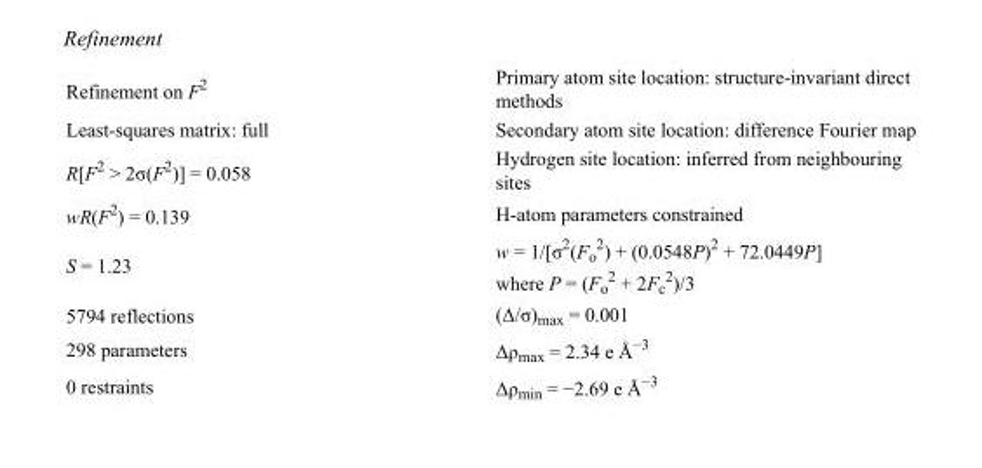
<table><tbody><tr><td>Refinement on F<sup>2</sup></td><td>Primary atom site location: structure-invariant direct methods</td></tr><tr><td>Least-squares matrix: full</td><td>Secondary atom site location: difference Fourier map</td></tr><tr><td>R[F<sup>2</sup> &gt; 2σ(F<sup>2</sup>)] = 0.058</td><td>Hydrogen site location: inferred from neighbouring sites</td></tr><tr><td>wR(F<sup>2</sup>) = 0.139</td><td>H-atom parameters constrained</td></tr><tr><td>S = 1.23</td><td>w = 1/[σ<sup>2</sup>(F<sub>o</sub> <sup>2</sup>) + (0.0548P)<sup>2</sup> + 72.0449P] where P = (F<sub>o</sub> <sup>2</sup> + 2F<sub>c</sub> <sup>2</sup>)/3</td></tr><tr><td>5794 reflections</td><td>(Δ/σ)<sub>max</sub> = 0.001</td></tr><tr><td>298 parameters</td><td>Δρ<sub>max</sub> = 2.34 e Å<sup>−3</sup></td></tr><tr><td>0 restraints</td><td>Δρ<sub>min</sub> = −2.69 e Å<sup>−3</sup></td></tr></tbody></table>